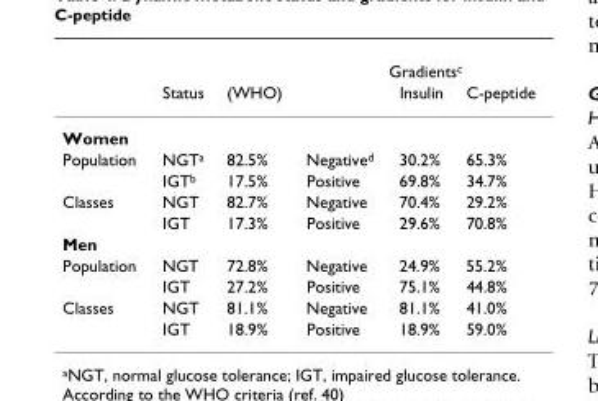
<table><thead><tr><td rowspan="2"></td><td rowspan="2">Status</td><td rowspan="2">(WHO)</td><td colspan="3">Gradients<sup>c</sup></td></tr><tr><td></td><td>Insulin</td><td>C-peptide</td></tr></thead><tbody><tr><td colspan="6">Women</td></tr><tr><td rowspan="2">Population</td><td>NGT<sup>a</sup></td><td>82.5%</td><td>Negative<sup>d</sup></td><td>30.2%</td><td>65.3%</td></tr><tr><td>IGT<sup>b</sup></td><td>17.5%</td><td>Positive</td><td>69.8%</td><td>34.7%</td></tr><tr><td rowspan="2">Classes</td><td>NGT</td><td>82.7%</td><td>Negative</td><td>70.4%</td><td>29.2%</td></tr><tr><td>IGT</td><td>17.3%</td><td>Positive</td><td>29.6%</td><td>70.8%</td></tr><tr><td colspan="6">Men</td></tr><tr><td rowspan="2">Population</td><td>NGT</td><td>72.8%</td><td>Negative</td><td>24.9%</td><td>55.2%</td></tr><tr><td>IGT</td><td>27.2%</td><td>Positive</td><td>75.1%</td><td>44.8%</td></tr><tr><td rowspan="2">Classes</td><td>NGT</td><td>81.1%</td><td>Negative</td><td>81.1%</td><td>41.0%</td></tr><tr><td>IGT</td><td>18.9%</td><td>Positive</td><td>18.9%</td><td>59.0%</td></tr></tbody></table>